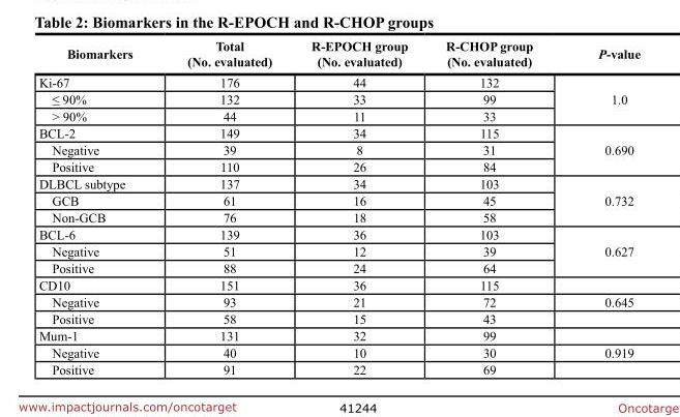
<table><thead><tr><td>biomarkers</td><td>total (no. evaluated)</td><td>r-EPocH group (no. evaluated)</td><td>r-cHoP group (no. evaluated)</td><td>P-value</td></tr></thead><tbody><tr><td>Ki-67</td><td>176</td><td>44</td><td>132</td><td rowspan="3">1.0</td></tr><tr><td>≤ 90%</td><td>132</td><td>33</td><td>99</td></tr><tr><td>&gt; 90%</td><td>44</td><td>11</td><td>33</td></tr><tr><td>BCL-2</td><td>149</td><td>34</td><td>115</td><td rowspan="3">0.690</td></tr><tr><td>Negative</td><td>39</td><td>8</td><td>31</td></tr><tr><td>Positive</td><td>110</td><td>26</td><td>84</td></tr><tr><td>DLBCL subtype</td><td>137</td><td>34</td><td>103</td><td rowspan="3">0.732</td></tr><tr><td>GCB</td><td>61</td><td>16</td><td>45</td></tr><tr><td>Non-GCB</td><td>76</td><td>18</td><td>58</td></tr><tr><td>BCL-6</td><td>139</td><td>36</td><td>103</td><td rowspan="3">0.627</td></tr><tr><td>Negative</td><td>51</td><td>12</td><td>39</td></tr><tr><td>Positive</td><td>88</td><td>24</td><td>64</td></tr><tr><td>CD10</td><td>151</td><td>36</td><td>115</td><td></td></tr><tr><td>Negative</td><td>93</td><td>21</td><td>72</td><td>0.645</td></tr><tr><td>Positive</td><td>58</td><td>15</td><td>43</td><td></td></tr><tr><td>Mum-1</td><td>131</td><td>32</td><td>99</td><td></td></tr><tr><td>Negative</td><td>40</td><td>10</td><td>30</td><td>0.919</td></tr><tr><td>Positive</td><td>91</td><td>22</td><td>69</td><td></td></tr></tbody></table>